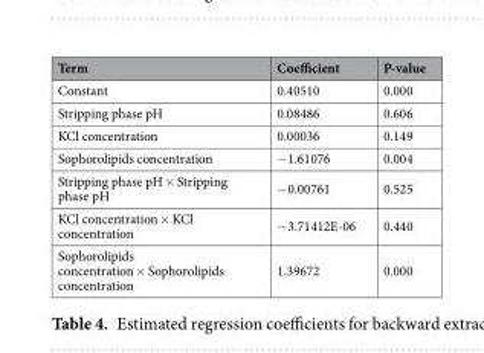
<table><thead><tr><td>Term</td><td>Coefficient</td><td>P-value</td></tr></thead><tbody><tr><td>Constant</td><td>0.40510</td><td>0.000</td></tr><tr><td>Stripping phase pH</td><td>0.08486</td><td>0.606</td></tr><tr><td>KCl concentration</td><td>0.00036</td><td>0.149</td></tr><tr><td>Sophorolipids concentration</td><td>−1.61076</td><td>0.004</td></tr><tr><td>Stripping phase pH × Stripping phase pH</td><td>−0.00761</td><td>0.525</td></tr><tr><td>KCl concentration × KCl concentration</td><td>−3.71412E-06</td><td>0.440</td></tr><tr><td>Sophorolipids concentration × Sophorolipids concentration</td><td>1.39672</td><td>0.000</td></tr></tbody></table>